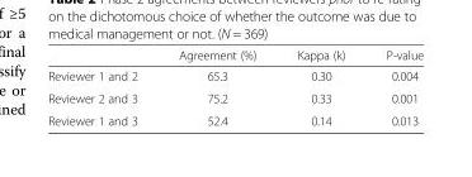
<table><thead><tr><td></td><td>Agreement (%)</td><td>Kappa (k)</td><td>P-value</td></tr></thead><tbody><tr><td>Reviewer 1 and 2</td><td>65.3</td><td>0.30</td><td>0.004</td></tr><tr><td>Reviewer 2 and 3</td><td>75.2</td><td>0.33</td><td>0.001</td></tr><tr><td>Reviewer 1 and 3</td><td>52.4</td><td>0.14</td><td>0.013</td></tr></tbody></table>